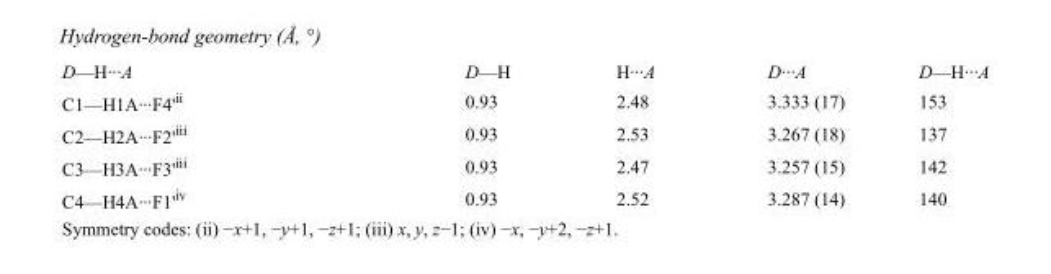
<table><tbody><tr><td>D—H···A</td><td>D—H</td><td>H···A</td><td>D···A</td><td>D—H···A</td></tr><tr><td>C1—H1A···F4&#x27;<sup>ii</sup></td><td>0.93</td><td>2.48</td><td>3.333 (17)</td><td>153</td></tr><tr><td>C2—H2A···F2&#x27;<sup>iii</sup></td><td>0.93</td><td>2.53</td><td>3.267 (18)</td><td>137</td></tr><tr><td>C3—H3A···F3&#x27;<sup>iii</sup></td><td>0.93</td><td>2.47</td><td>3.257 (15)</td><td>142</td></tr><tr><td>C4—H4A···F1&#x27;<sup>iv</sup></td><td>0.93</td><td>2.52</td><td>3.287 (14)</td><td>140</td></tr></tbody></table>